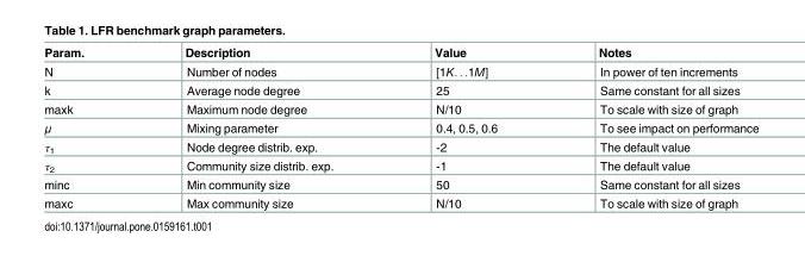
<table><thead><tr><td>Param.</td><td>Description</td><td>Value</td><td>Notes</td></tr></thead><tbody><tr><td>N</td><td>Number of nodes</td><td>[1K. . .1M]</td><td>In power of ten increments</td></tr><tr><td>k</td><td>Average node degree</td><td>25</td><td>Same constant for all sizes</td></tr><tr><td>maxk</td><td>Maximum node degree</td><td>N/10</td><td>To scale with size of graph</td></tr><tr><td>μ</td><td>Mixing parameter</td><td>0.4, 0.5, 0.6</td><td>To see impact on performance</td></tr><tr><td>τ<sub>1</sub></td><td>Node degree distrib. exp.</td><td>-2</td><td>The default value</td></tr><tr><td>τ<sub>2</sub></td><td>Community size distrib. exp.</td><td>-1</td><td>The default value</td></tr><tr><td>minc</td><td>Min community size</td><td>50</td><td>Same constant for all sizes</td></tr><tr><td>maxc</td><td>Max community size</td><td>N/10</td><td>To scale with size of graph</td></tr></tbody></table>